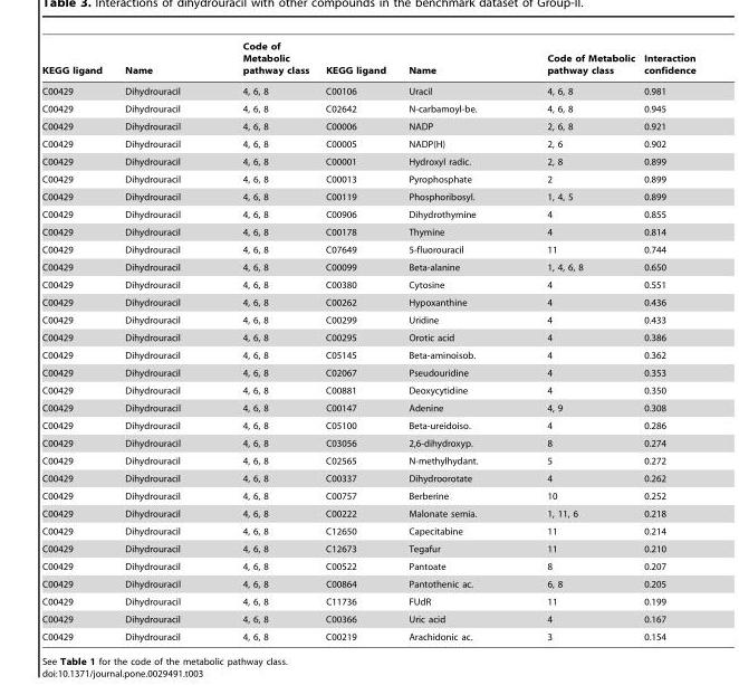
<table><thead><tr><td>KEGG ligand</td><td>Name</td><td>Code of Metabolic pathway class</td><td>KEGG ligand</td><td>Name</td><td>Code of Metabolic pathway class</td><td>Interaction confidence</td></tr></thead><tbody><tr><td>C00429</td><td>Dihydrouracil</td><td>4, 6, 8</td><td>C00106</td><td>Uracil</td><td>4, 6, 8</td><td>0.981</td></tr><tr><td>C00429</td><td>Dihydrouracil</td><td>4, 6, 8</td><td>C02642</td><td>N-carbamoyl-be.</td><td>4, 6, 8</td><td>0.945</td></tr><tr><td>C00429</td><td>Dihydrouracil</td><td>4, 6, 8</td><td>C00006</td><td>NADP</td><td>2, 6, 8</td><td>0.921</td></tr><tr><td>C00429</td><td>Dihydrouracil</td><td>4, 6, 8</td><td>C00005</td><td>NADP(H)</td><td>2, 6</td><td>0.902</td></tr><tr><td>C00429</td><td>Dihydrouracil</td><td>4, 6, 8</td><td>C00001</td><td>Hydroxyl radic.</td><td>2, 8</td><td>0.899</td></tr><tr><td>C00429</td><td>Dihydrouracil</td><td>4, 6, 8</td><td>C00013</td><td>Pyrophosphate</td><td>2</td><td>0.899</td></tr><tr><td>C00429</td><td>Dihydrouracil</td><td>4, 6, 8</td><td>C00119</td><td>Phosphoribosyl.</td><td>1, 4, 5</td><td>0.899</td></tr><tr><td>C00429</td><td>Dihydrouracil</td><td>4, 6, 8</td><td>C00906</td><td>Dihydrothymine</td><td>4</td><td>0.855</td></tr><tr><td>C00429</td><td>Dihydrouracil</td><td>4, 6, 8</td><td>C00178</td><td>Thymine</td><td>4</td><td>0.814</td></tr><tr><td>C00429</td><td>Dihydrouracil</td><td>4, 6, 8</td><td>C07649</td><td>5-fluorouracil</td><td>11</td><td>0.744</td></tr><tr><td>C00429</td><td>Dihydrouracil</td><td>4, 6, 8</td><td>C00099</td><td>Beta-alanine</td><td>1, 4, 6, 8</td><td>0.650</td></tr><tr><td>C00429</td><td>Dihydrouracil</td><td>4, 6, 8</td><td>C00380</td><td>Cytosine</td><td>4</td><td>0.551</td></tr><tr><td>C00429</td><td>Dihydrouracil</td><td>4, 6, 8</td><td>C00262</td><td>Hypoxanthine</td><td>4</td><td>0.436</td></tr><tr><td>C00429</td><td>Dihydrouracil</td><td>4, 6, 8</td><td>C00299</td><td>Uridine</td><td>4</td><td>0.433</td></tr><tr><td>C00429</td><td>Dihydrouracil</td><td>4, 6, 8</td><td>C00295</td><td>Orotic acid</td><td>4</td><td>0.386</td></tr><tr><td>C00429</td><td>Dihydrouracil</td><td>4, 6, 8</td><td>C05145</td><td>Beta-aminoisob.</td><td>4</td><td>0.362</td></tr><tr><td>C00429</td><td>Dihydrouracil</td><td>4, 6, 8</td><td>C02067</td><td>Pseudouridine</td><td>4</td><td>0.353</td></tr><tr><td>C00429</td><td>Dihydrouracil</td><td>4, 6, 8</td><td>C00881</td><td>Deoxycytidine</td><td>4</td><td>0.350</td></tr><tr><td>C00429</td><td>Dihydrouracil</td><td>4, 6, 8</td><td>C00147</td><td>Adenine</td><td>4, 9</td><td>0.308</td></tr><tr><td>C00429</td><td>Dihydrouracil</td><td>4, 6, 8</td><td>C05100</td><td>Beta-ureidoiso.</td><td>4</td><td>0.286</td></tr><tr><td>C00429</td><td>Dihydrouracil</td><td>4, 6, 8</td><td>C03056</td><td>2,6-dihydroxyp.</td><td>8</td><td>0.274</td></tr><tr><td>C00429</td><td>Dihydrouracil</td><td>4, 6, 8</td><td>C02565</td><td>N-methylhydant.</td><td>5</td><td>0.272</td></tr><tr><td>C00429</td><td>Dihydrouracil</td><td>4, 6, 8</td><td>C00337</td><td>Dihydroorotate</td><td>4</td><td>0.262</td></tr><tr><td>C00429</td><td>Dihydrouracil</td><td>4, 6, 8</td><td>C00757</td><td>Berberine</td><td>10</td><td>0.252</td></tr><tr><td>C00429</td><td>Dihydrouracil</td><td>4, 6, 8</td><td>C00222</td><td>Malonate semia.</td><td>1, 11, 6</td><td>0.218</td></tr><tr><td>C00429</td><td>Dihydrouracil</td><td>4, 6, 8</td><td>C12650</td><td>Capecitabine</td><td>11</td><td>0.214</td></tr><tr><td>C00429</td><td>Dihydrouracil</td><td>4, 6, 8</td><td>C12673</td><td>Tegafur</td><td>11</td><td>0.210</td></tr><tr><td>C00429</td><td>Dihydrouracil</td><td>4, 6, 8</td><td>C00522</td><td>Pantoate</td><td>8</td><td>0.207</td></tr><tr><td>C00429</td><td>Dihydrouracil</td><td>4, 6, 8</td><td>C00864</td><td>Pantothenic ac.</td><td>6, 8</td><td>0.205</td></tr><tr><td>C00429</td><td>Dihydrouracil</td><td>4, 6, 8</td><td>C11736</td><td>FUdR</td><td>11</td><td>0.199</td></tr><tr><td>C00429</td><td>Dihydrouracil</td><td>4, 6, 8</td><td>C00366</td><td>Uric acid</td><td>4</td><td>0.167</td></tr><tr><td>C00429</td><td>Dihydrouracil</td><td>4, 6, 8</td><td>C00219</td><td>Arachidonic ac.</td><td>3</td><td>0.154</td></tr></tbody></table>